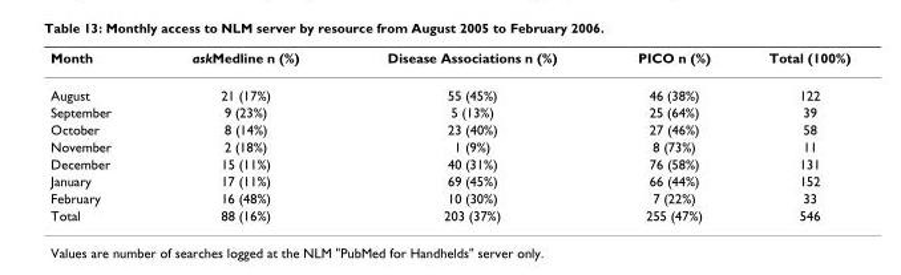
<table><thead><tr><td>Month</td><td>askMedline n (%)</td><td>Disease Associations n (%)</td><td>PICO n (%)</td><td>Total (100%)</td></tr></thead><tbody><tr><td>August</td><td>21 (17%)</td><td>55 (45%)</td><td>46 (38%)</td><td>122</td></tr><tr><td>September</td><td>9 (23%)</td><td>5 (13%)</td><td>25 (64%)</td><td>39</td></tr><tr><td>October</td><td>8 (14%)</td><td>23 (40%)</td><td>27 (46%)</td><td>58</td></tr><tr><td>November</td><td>2 (18%)</td><td>1 (9%)</td><td>8 (73%)</td><td>11</td></tr><tr><td>December</td><td>15 (11%)</td><td>40 (31%)</td><td>76 (58%)</td><td>131</td></tr><tr><td>January</td><td>17 (11%)</td><td>69 (45%)</td><td>66 (44%)</td><td>152</td></tr><tr><td>February</td><td>16 (48%)</td><td>10 (30%)</td><td>7 (22%)</td><td>33</td></tr><tr><td>Total</td><td>88 (16%)</td><td>203 (37%)</td><td>255 (47%)</td><td>546</td></tr></tbody></table>